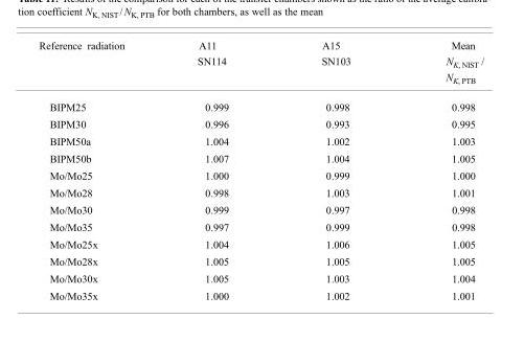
<table><thead><tr><td>Reference radiation</td><td>A11 SN114</td><td>A15 SN103</td><td>Mean N<sub>K, NIST</sub> / N<sub>K, PTB</sub></td></tr></thead><tbody><tr><td>BIPM25</td><td>0.999</td><td>0.998</td><td>0.998</td></tr><tr><td>BIPM30</td><td>0.996</td><td>0.993</td><td>0.995</td></tr><tr><td>BIPM50a</td><td>1.004</td><td>1.002</td><td>1.003</td></tr><tr><td>BIPM50b</td><td>1.007</td><td>1.004</td><td>1.005</td></tr><tr><td>Mo/Mo25</td><td>1.000</td><td>0.999</td><td>1.000</td></tr><tr><td>Mo/Mo28</td><td>0.998</td><td>1.003</td><td>1.001</td></tr><tr><td>Mo/Mo30</td><td>0.999</td><td>0.997</td><td>0.998</td></tr><tr><td>Mo/Mo35</td><td>0.997</td><td>0.999</td><td>0.998</td></tr><tr><td>Mo/Mo25x</td><td>1.004</td><td>1.006</td><td>1.005</td></tr><tr><td>Mo/Mo28x</td><td>1.005</td><td>1.005</td><td>1.005</td></tr><tr><td>Mo/Mo30x</td><td>1.005</td><td>1.003</td><td>1.004</td></tr><tr><td>Mo/Mo35x</td><td>1.000</td><td>1.002</td><td>1.001</td></tr></tbody></table>